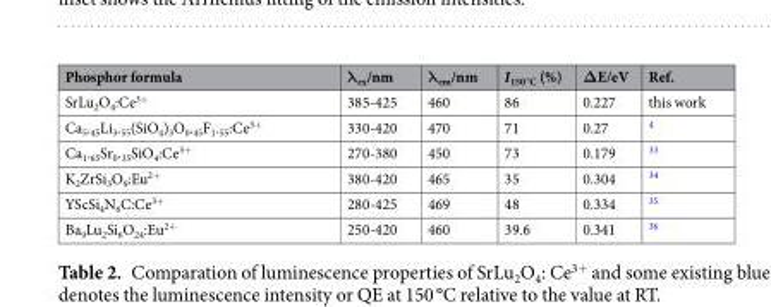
<table><thead><tr><td>Phosphor formula</td><td>λ<sub>ex</sub>/nm</td><td>λ<sub>em</sub>/nm</td><td>I<sub>150 °C</sub> (%)</td><td>ΔE/eV</td><td>Ref.</td></tr></thead><tbody><tr><td>SrLu<sub>2</sub>O<sub>4</sub>:Ce<sup>3+</sup></td><td>385-425</td><td>460</td><td>86</td><td>0.227</td><td>this work</td></tr><tr><td>Ca<sub>5</sub>.<sub>45</sub>Li<sub>3</sub>.<sub>55</sub>(SiO<sub>4</sub>)<sub>3</sub>O<sub>0</sub>.<sub>45</sub>F<sub>1</sub>.<sub>55</sub>:Ce<sup>3+</sup></td><td>330-420</td><td>470</td><td>71</td><td>0.27</td><td><sup>4</sup></td></tr><tr><td>Ca<sub>1</sub>.<sub>65</sub>Sr<sub>0</sub>.<sub>35</sub>SiO<sub>4</sub>:Ce<sup>3+</sup></td><td>270-380</td><td>450</td><td>73</td><td>0.179</td><td><sup>33</sup></td></tr><tr><td>K<sub>2</sub>ZrSi<sub>3</sub>O<sub>9</sub>:Eu<sup>2+</sup></td><td>380-420</td><td>465</td><td>35</td><td>0.304</td><td><sup>34</sup></td></tr><tr><td>YScSi<sub>4</sub>N<sub>6</sub>C:Ce<sup>3+</sup></td><td>280-425</td><td>469</td><td>48</td><td>0.334</td><td><sup>35</sup></td></tr><tr><td>Ba<sub>9</sub>Lu<sub>2</sub>Si<sub>6</sub>O<sub>24</sub>:Eu<sup>2+</sup></td><td>250-420</td><td>460</td><td>39.6</td><td>0.341</td><td><sup>36</sup></td></tr></tbody></table>